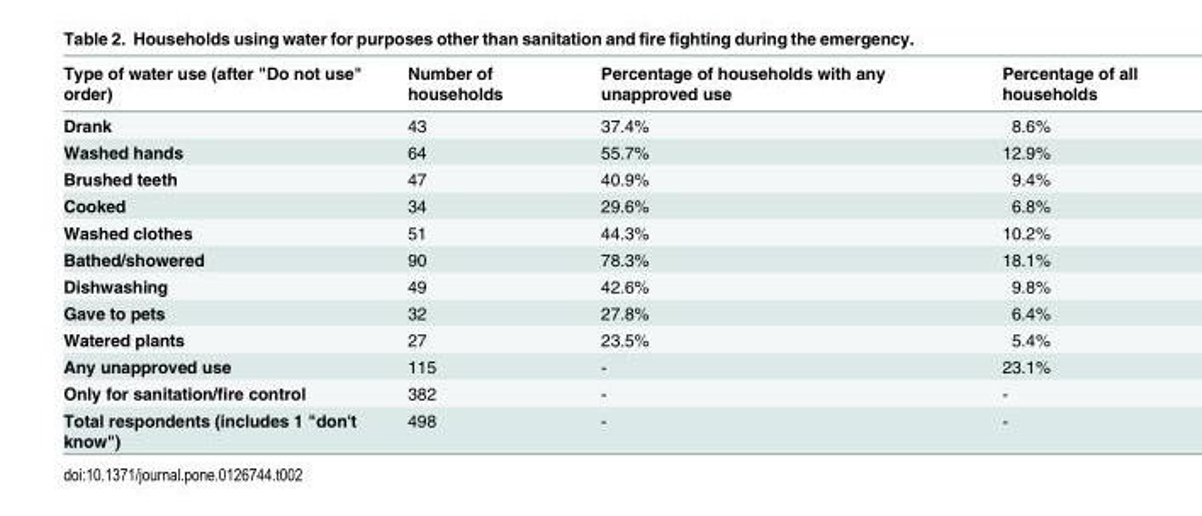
<table><thead><tr><td>Type of water use (after &quot;Do not use&quot; order)</td><td>Number of households</td><td>Percentage of households with any unapproved use</td><td>Percentage of all households</td></tr></thead><tbody><tr><td>Drank</td><td>43</td><td>37.4%</td><td>8.6%</td></tr><tr><td>Washed hands</td><td>64</td><td>55.7%</td><td>12.9%</td></tr><tr><td>Brushed teeth</td><td>47</td><td>40.9%</td><td>9.4%</td></tr><tr><td>Cooked</td><td>34</td><td>29.6%</td><td>6.8%</td></tr><tr><td>Washed clothes</td><td>51</td><td>44.3%</td><td>10.2%</td></tr><tr><td>Bathed/showered</td><td>90</td><td>78.3%</td><td>18.1%</td></tr><tr><td>Dishwashing</td><td>49</td><td>42.6%</td><td>9.8%</td></tr><tr><td>Gave to pets</td><td>32</td><td>27.8%</td><td>6.4%</td></tr><tr><td>Watered plants</td><td>27</td><td>23.5%</td><td>5.4%</td></tr><tr><td>Any unapproved use</td><td>115</td><td>-</td><td>23.1%</td></tr><tr><td>Only for sanitation/fire control</td><td>382</td><td>-</td><td>-</td></tr><tr><td>Total respondents (includes 1 &quot;don&#x27;t know&quot;)</td><td>498</td><td>-</td><td>-</td></tr></tbody></table>